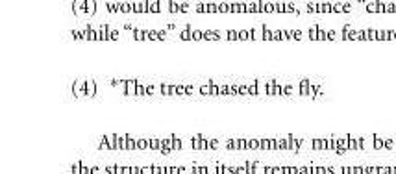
<table><tbody><tr><td>(4)</td><td>∗The tree chased the fly.</td></tr></tbody></table>